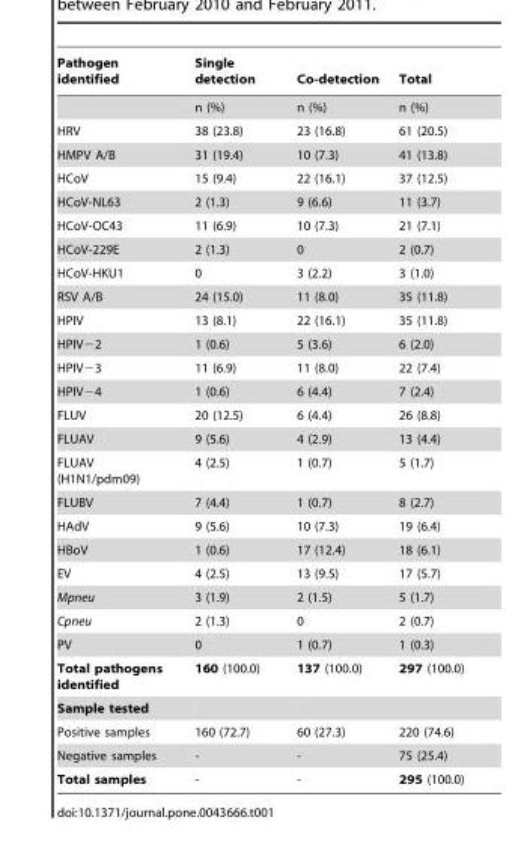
<table><thead><tr><td>Pathogen identified</td><td>Single detection</td><td>Co-detection</td><td>Total</td></tr></thead><tbody><tr><td></td><td>n (%)</td><td>n (%)</td><td>n (%)</td></tr><tr><td>HRV</td><td>38 (23.8)</td><td>23 (16.8)</td><td>61 (20.5)</td></tr><tr><td>HMPV A/B</td><td>31 (19.4)</td><td>10 (7.3)</td><td>41 (13.8)</td></tr><tr><td>HCoV</td><td>15 (9.4)</td><td>22 (16.1)</td><td>37 (12.5)</td></tr><tr><td>HCoV-NL63</td><td>2 (1.3)</td><td>9 (6.6)</td><td>11 (3.7)</td></tr><tr><td>HCoV-OC43</td><td>11 (6.9)</td><td>10 (7.3)</td><td>21 (7.1)</td></tr><tr><td>HCoV-229E</td><td>2 (1.3)</td><td>0</td><td>2 (0.7)</td></tr><tr><td>HCoV-HKU1</td><td>0</td><td>3 (2.2)</td><td>3 (1.0)</td></tr><tr><td>RSV A/B</td><td>24 (15.0)</td><td>11 (8.0)</td><td>35 (11.8)</td></tr><tr><td>HPIV</td><td>13 (8.1)</td><td>22 (16.1)</td><td>35 (11.8)</td></tr><tr><td>HPIV−2</td><td>1 (0.6)</td><td>5 (3.6)</td><td>6 (2.0)</td></tr><tr><td>HPIV−3</td><td>11 (6.9)</td><td>11 (8.0)</td><td>22 (7.4)</td></tr><tr><td>HPIV−4</td><td>1 (0.6)</td><td>6 (4.4)</td><td>7 (2.4)</td></tr><tr><td>FLUV</td><td>20 (12.5)</td><td>6 (4.4)</td><td>26 (8.8)</td></tr><tr><td>FLUAV</td><td>9 (5.6)</td><td>4 (2.9)</td><td>13 (4.4)</td></tr><tr><td>FLUAV (H1N1/pdm09)</td><td>4 (2.5)</td><td>1 (0.7)</td><td>5 (1.7)</td></tr><tr><td>FLUBV</td><td>7 (4.4)</td><td>1 (0.7)</td><td>8 (2.7)</td></tr><tr><td>HAdV</td><td>9 (5.6)</td><td>10 (7.3)</td><td>19 (6.4)</td></tr><tr><td>HBoV</td><td>1 (0.6)</td><td>17 (12.4)</td><td>18 (6.1)</td></tr><tr><td>EV</td><td>4 (2.5)</td><td>13 (9.5)</td><td>17 (5.7)</td></tr><tr><td>Mpneu</td><td>3 (1.9)</td><td>2 (1.5)</td><td>5 (1.7)</td></tr><tr><td>Cpneu</td><td>2 (1.3)</td><td>0</td><td>2 (0.7)</td></tr><tr><td>PV</td><td>0</td><td>1 (0.7)</td><td>1 (0.3)</td></tr><tr><td>Total pathogens identified</td><td>160 (100.0)</td><td>137 (100.0)</td><td>297 (100.0)</td></tr><tr><td colspan="4">Sample tested</td></tr><tr><td>Positive samples</td><td>160 (72.7)</td><td>60 (27.3)</td><td>220 (74.6)</td></tr><tr><td>Negative samples</td><td>-</td><td>-</td><td>75 (25.4)</td></tr><tr><td>Total samples</td><td>-</td><td>-</td><td>295 (100.0)</td></tr></tbody></table>